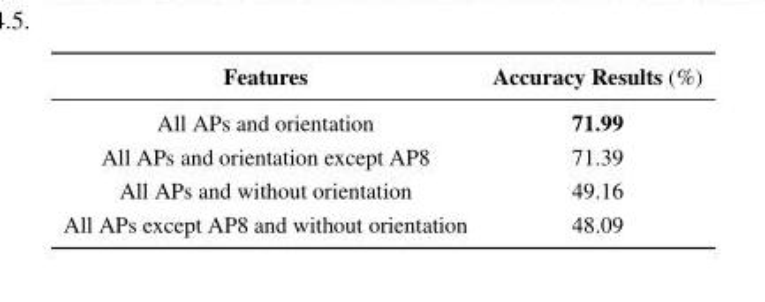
<table><thead><tr><td>Features</td><td>Accuracy Results (%)</td></tr></thead><tbody><tr><td>All APs and orientation</td><td>71.99</td></tr><tr><td>All APs and orientation except AP8</td><td>71.39</td></tr><tr><td>All APs and without orientation</td><td>49.16</td></tr><tr><td>All APs except AP8 and without orientation</td><td>48.09</td></tr></tbody></table>